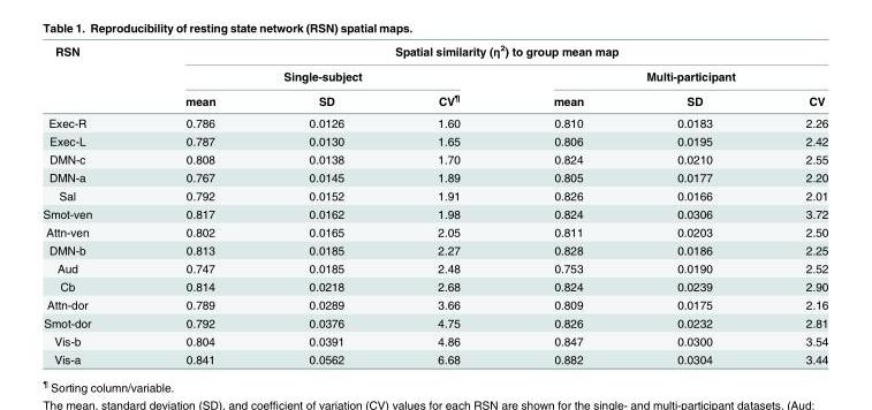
<table><thead><tr><td rowspan="3">RSN</td><td colspan="6">Spatial similarity (η<sup>2</sup>) to group mean map</td></tr><tr><td colspan="3">Single-subject</td><td colspan="3">Multi-participant</td></tr><tr><td>mean</td><td>SD</td><td>CV<sup>¶</sup></td><td>mean</td><td>SD</td><td>CV</td></tr></thead><tbody><tr><td>Exec-R</td><td>0.786</td><td>0.0126</td><td>1.60</td><td>0.810</td><td>0.0183</td><td>2.26</td></tr><tr><td>Exec-L</td><td>0.787</td><td>0.0130</td><td>1.65</td><td>0.806</td><td>0.0195</td><td>2.42</td></tr><tr><td>DMN-c</td><td>0.808</td><td>0.0138</td><td>1.70</td><td>0.824</td><td>0.0210</td><td>2.55</td></tr><tr><td>DMN-a</td><td>0.767</td><td>0.0145</td><td>1.89</td><td>0.805</td><td>0.0177</td><td>2.20</td></tr><tr><td>Sal</td><td>0.792</td><td>0.0152</td><td>1.91</td><td>0.826</td><td>0.0166</td><td>2.01</td></tr><tr><td>Smot-ven</td><td>0.817</td><td>0.0162</td><td>1.98</td><td>0.824</td><td>0.0306</td><td>3.72</td></tr><tr><td>Attn-ven</td><td>0.802</td><td>0.0165</td><td>2.05</td><td>0.811</td><td>0.0203</td><td>2.50</td></tr><tr><td>DMN-b</td><td>0.813</td><td>0.0185</td><td>2.27</td><td>0.828</td><td>0.0186</td><td>2.25</td></tr><tr><td>Aud</td><td>0.747</td><td>0.0185</td><td>2.48</td><td>0.753</td><td>0.0190</td><td>2.52</td></tr><tr><td>Cb</td><td>0.814</td><td>0.0218</td><td>2.68</td><td>0.824</td><td>0.0239</td><td>2.90</td></tr><tr><td>Attn-dor</td><td>0.789</td><td>0.0289</td><td>3.66</td><td>0.809</td><td>0.0175</td><td>2.16</td></tr><tr><td>Smot-dor</td><td>0.792</td><td>0.0376</td><td>4.75</td><td>0.826</td><td>0.0232</td><td>2.81</td></tr><tr><td>Vis-b</td><td>0.804</td><td>0.0391</td><td>4.86</td><td>0.847</td><td>0.0300</td><td>3.54</td></tr><tr><td>Vis-a</td><td>0.841</td><td>0.0562</td><td>6.68</td><td>0.882</td><td>0.0304</td><td>3.44</td></tr></tbody></table>